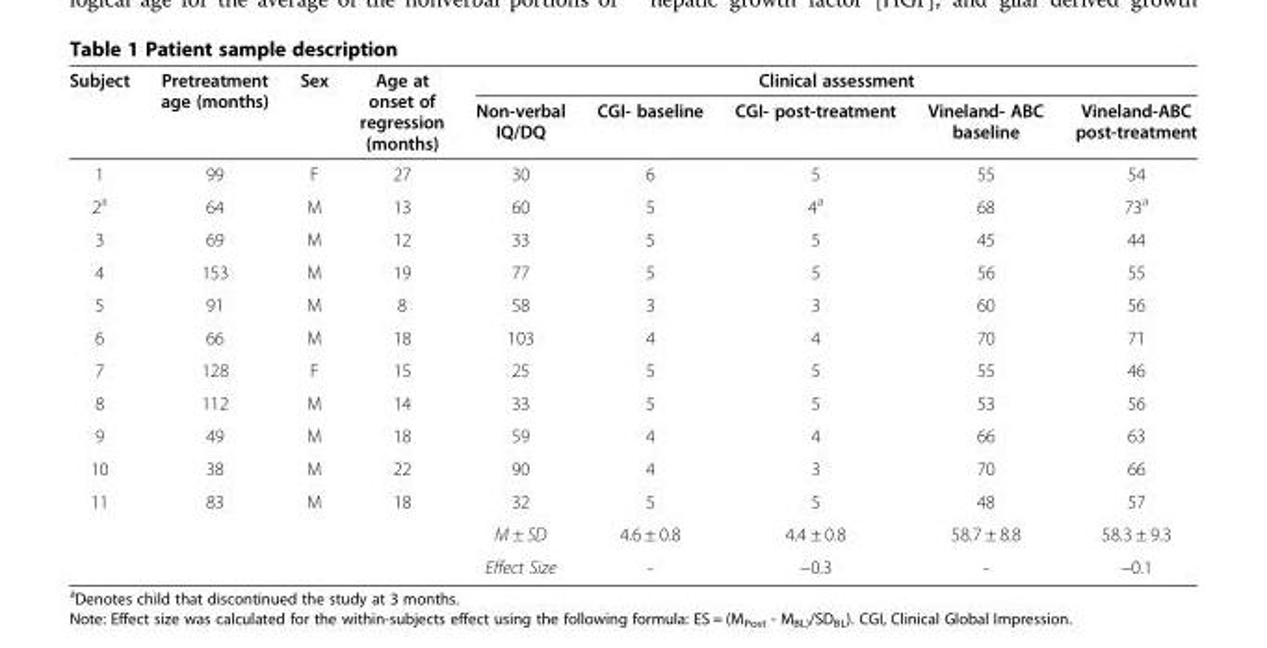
<table><thead><tr><td rowspan="2">Subject</td><td rowspan="2">Pretreatment age (months)</td><td rowspan="2">Sex</td><td rowspan="2">Age at onset of regression (months)</td><td colspan="5">Clinical assessment</td></tr><tr><td>Non-verbal IQ/DQ</td><td>CGI- baseline</td><td>CGI- post-treatment</td><td>Vineland- ABC baseline</td><td>Vineland-ABC post-treatment</td></tr></thead><tbody><tr><td>1</td><td>99</td><td>F</td><td>27</td><td>30</td><td>6</td><td>5</td><td>55</td><td>54</td></tr><tr><td>2<sup>a</sup></td><td>64</td><td>M</td><td>13</td><td>60</td><td>5</td><td>4<sup>a</sup></td><td>68</td><td>73<sup>a</sup></td></tr><tr><td>3</td><td>69</td><td>M</td><td>12</td><td>33</td><td>5</td><td>5</td><td>45</td><td>44</td></tr><tr><td>4</td><td>153</td><td>M</td><td>19</td><td>77</td><td>5</td><td>5</td><td>56</td><td>55</td></tr><tr><td>5</td><td>91</td><td>M</td><td>8</td><td>58</td><td>3</td><td>3</td><td>60</td><td>56</td></tr><tr><td>6</td><td>66</td><td>M</td><td>18</td><td>103</td><td>4</td><td>4</td><td>70</td><td>71</td></tr><tr><td>7</td><td>128</td><td>F</td><td>15</td><td>25</td><td>5</td><td>5</td><td>55</td><td>46</td></tr><tr><td>8</td><td>112</td><td>M</td><td>14</td><td>33</td><td>5</td><td>5</td><td>53</td><td>56</td></tr><tr><td>9</td><td>49</td><td>M</td><td>18</td><td>59</td><td>4</td><td>4</td><td>66</td><td>63</td></tr><tr><td>10</td><td>38</td><td>M</td><td>22</td><td>90</td><td>4</td><td>3</td><td>70</td><td>66</td></tr><tr><td rowspan="3">11</td><td>83</td><td>M</td><td>18</td><td>32</td><td>5</td><td>5</td><td>48</td><td>57</td></tr><tr><td></td><td></td><td></td><td>M ± SD</td><td>4.6 ± 0.8</td><td>4.4 ± 0.8</td><td>58.7 ± 8.8</td><td>58.3 ± 9.3</td></tr><tr><td></td><td></td><td></td><td>Effect Size</td><td>-</td><td>−0.3</td><td>-</td><td>−0.1</td></tr></tbody></table>